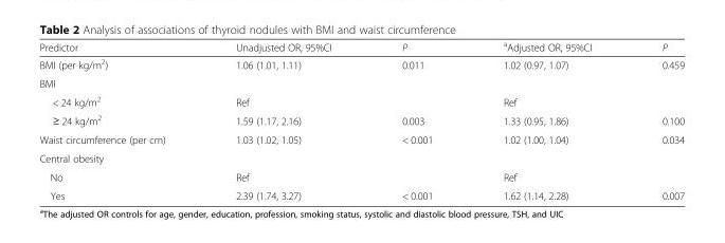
<table><thead><tr><td>Predictor</td><td>Unadjusted OR, 95%CI</td><td>P</td><td><sup>a</sup>Adjusted OR, 95%CI</td><td>P</td></tr></thead><tbody><tr><td>BMI (per kg/m<sup>2</sup>)</td><td>1.06 (1.01, 1.11)</td><td>0.011</td><td>1.02 (0.97, 1.07)</td><td>0.459</td></tr><tr><td colspan="5">BMI</td></tr><tr><td>&lt; 24 kg/m<sup>2</sup></td><td>Ref</td><td></td><td>Ref</td><td></td></tr><tr><td>≥ 24 kg/m<sup>2</sup></td><td>1.59 (1.17, 2.16)</td><td>0.003</td><td>1.33 (0.95, 1.86)</td><td>0.100</td></tr><tr><td>Waist circumference (per cm)</td><td>1.03 (1.02, 1.05)</td><td>&lt; 0.001</td><td>1.02 (1.00, 1.04)</td><td>0.034</td></tr><tr><td colspan="5">Central obesity</td></tr><tr><td>No</td><td>Ref</td><td></td><td>Ref</td><td></td></tr><tr><td>Yes</td><td>2.39 (1.74, 3.27)</td><td>&lt; 0.001</td><td>1.62 (1.14, 2.28)</td><td>0.007</td></tr></tbody></table>